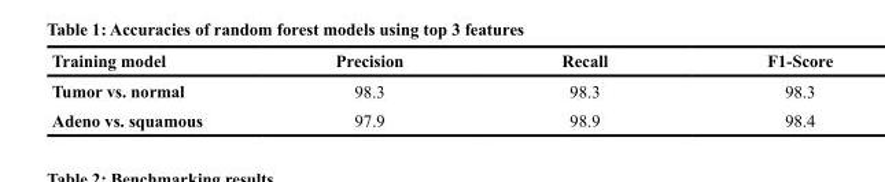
<table><thead><tr><td>Training model</td><td>Precision</td><td>Recall</td><td>F1-Score</td></tr></thead><tbody><tr><td>Tumor vs. normal</td><td>98.3</td><td>98.3</td><td>98.3</td></tr><tr><td>Adeno vs. squamous</td><td>97.9</td><td>98.9</td><td>98.4</td></tr></tbody></table>